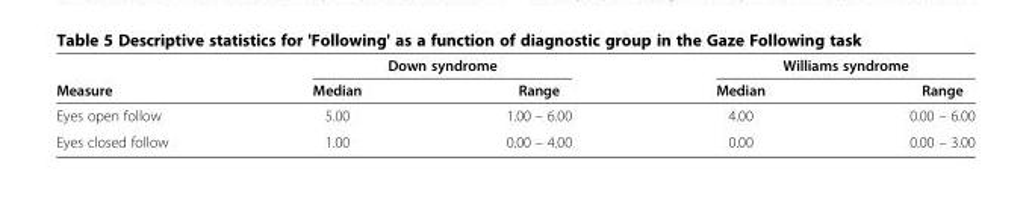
<table><thead><tr><td rowspan="2">Measure</td><td colspan="2">Down syndrome</td><td colspan="2">Williams syndrome</td></tr><tr><td>Median</td><td>Range</td><td>Median</td><td>Range</td></tr></thead><tbody><tr><td>Eyes open follow</td><td>5.00</td><td>1.00 – 6.00</td><td>4.00</td><td>0.00 – 6.00</td></tr><tr><td>Eyes closed follow</td><td>1.00</td><td>0.00 – 4.00</td><td>0.00</td><td>0.00 – 3.00</td></tr></tbody></table>